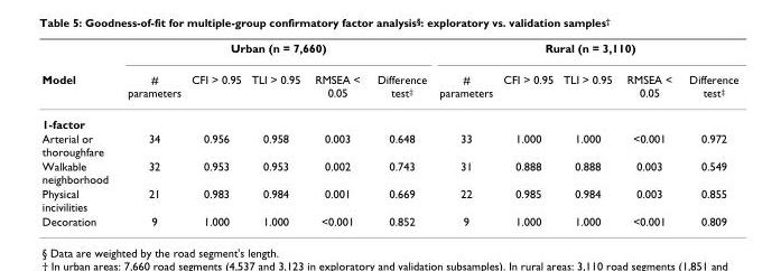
<table><thead><tr><td rowspan="2">Model</td><td colspan="5">Urban (n = 7,660)</td><td colspan="5">Rural (n = 3,110)</td></tr><tr><td># parameters</td><td>CFI &gt; 0.95</td><td>TLI &gt; 0.95</td><td>RMSEA &lt; 0.05</td><td>Difference test<sup>‡</sup></td><td># parameters</td><td>CFI &gt; 0.95</td><td>TLI &gt; 0.95</td><td>RMSEA &lt; 0.05</td><td>Difference test<sup>‡</sup></td></tr></thead><tbody><tr><td colspan="11">1-factor</td></tr><tr><td>Arterial or thoroughfare</td><td>34</td><td>0.956</td><td>0.958</td><td>0.003</td><td>0.648</td><td>33</td><td>1.000</td><td>1.000</td><td>&lt;0.001</td><td>0.972</td></tr><tr><td>Walkable neighborhood</td><td>32</td><td>0.953</td><td>0.953</td><td>0.002</td><td>0.743</td><td>31</td><td>0.888</td><td>0.888</td><td>0.003</td><td>0.549</td></tr><tr><td>Physical incivilities</td><td>21</td><td>0.983</td><td>0.984</td><td>0.001</td><td>0.669</td><td>22</td><td>0.985</td><td>0.984</td><td>0.003</td><td>0.855</td></tr><tr><td>Decoration</td><td>9</td><td>1.000</td><td>1.000</td><td>&lt;0.001</td><td>0.852</td><td>9</td><td>1.000</td><td>1.000</td><td>&lt;0.001</td><td>0.809</td></tr></tbody></table>